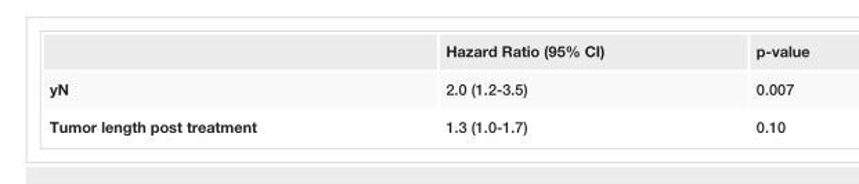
<table><thead><tr><td></td><td>Hazard Ratio (95% CI)</td><td>p-value</td></tr></thead><tbody><tr><td>yN</td><td>2.0 (1.2-3.5)</td><td>0.007</td></tr><tr><td>Tumor length post treatment</td><td>1.3 (1.0-1.7)</td><td>0.10</td></tr></tbody></table>